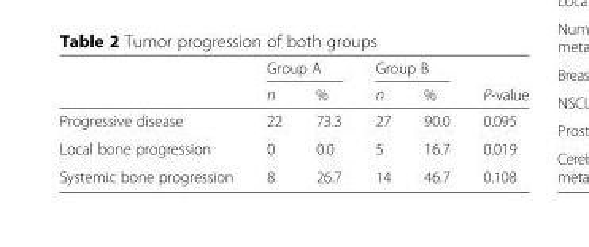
<table><thead><tr><td rowspan="2"></td><td colspan="2">Group A</td><td colspan="2">Group B</td><td rowspan="2">P-value</td></tr><tr><td>n</td><td>%</td><td>n</td><td>%</td></tr></thead><tbody><tr><td>Progressive disease</td><td>22</td><td>73.3</td><td>27</td><td>90.0</td><td>0.095</td></tr><tr><td>Local bone progression</td><td>0</td><td>0.0</td><td>5</td><td>16.7</td><td>0.019</td></tr><tr><td>Systemic bone progression</td><td>8</td><td>26.7</td><td>14</td><td>46.7</td><td>0.108</td></tr></tbody></table>